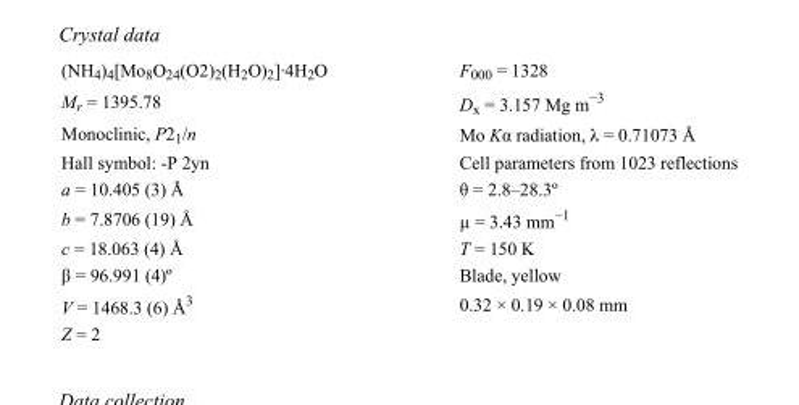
<table><tbody><tr><td>(NH<sub>4</sub>)<sub>4</sub>[Mo<sub>8</sub>O<sub>24</sub>(O2)<sub>2</sub>(H<sub>2</sub>O)<sub>2</sub>]·4H<sub>2</sub>O</td><td>F000 = 1328</td></tr><tr><td>M<sub>r</sub> = 1395.78</td><td>D<sub>x</sub> = 3.157 Mg m<sup>−3</sup></td></tr><tr><td>Monoclinic, P2<sub>1</sub>/n</td><td>Mo Kα radiation, λ = 0.71073 Å</td></tr><tr><td>Hall symbol: -P 2yn</td><td>Cell parameters from 1023 reflections</td></tr><tr><td>a = 10.405 (3) Å</td><td>θ = 2.8–28.3º</td></tr><tr><td>b = 7.8706 (19) Å</td><td>µ = 3.43 mm<sup>−1</sup></td></tr><tr><td>c = 18.063 (4) Å</td><td>T = 150 K</td></tr><tr><td>β = 96.991 (4)º</td><td>Blade, yellow</td></tr><tr><td>V = 1468.3 (6) Å<sup>3</sup></td><td>0.32 × 0.19 × 0.08 mm</td></tr><tr><td>Z = 2</td><td></td></tr></tbody></table>